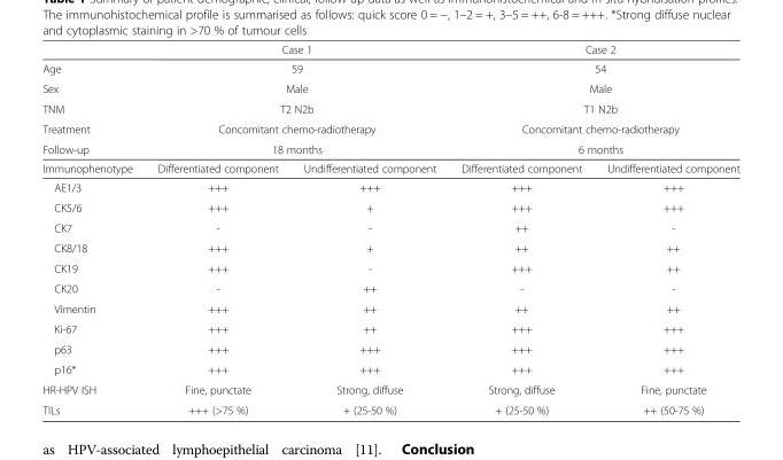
<table><thead><tr><td></td><td colspan="2">Case 1</td><td colspan="2">Case 2</td></tr></thead><tbody><tr><td>Age</td><td colspan="2">59</td><td colspan="2">54</td></tr><tr><td>Sex</td><td colspan="2">Male</td><td colspan="2">Male</td></tr><tr><td>TNM</td><td colspan="2">T2 N2b</td><td colspan="2">T1 N2b</td></tr><tr><td>Treatment</td><td colspan="2">Concomitant chemo-radiotherapy</td><td colspan="2">Concomitant chemo-radiotherapy</td></tr><tr><td>Follow-up</td><td colspan="2">18 months</td><td colspan="2">6 months</td></tr><tr><td>Immunophenotype</td><td>Differentiated component</td><td>Undifferentiated component</td><td>Differentiated component</td><td>Undifferentiated component</td></tr><tr><td>AE1/3</td><td>+++</td><td>+++</td><td>+++</td><td>+++</td></tr><tr><td>CK5/6</td><td>+++</td><td>+</td><td>+++</td><td>+++</td></tr><tr><td>CK7</td><td>-</td><td>-</td><td>++</td><td>-</td></tr><tr><td>CK8/18</td><td>+++</td><td>+</td><td>++</td><td>++</td></tr><tr><td>CK19</td><td>+++</td><td>-</td><td>+++</td><td>++</td></tr><tr><td>CK20</td><td>-</td><td>++</td><td>-</td><td>-</td></tr><tr><td>Vimentin</td><td>+++</td><td>++</td><td>++</td><td>++</td></tr><tr><td>Ki-67</td><td>+++</td><td>++</td><td>+++</td><td>+++</td></tr><tr><td>p63</td><td>+++</td><td>+++</td><td>+++</td><td>+++</td></tr><tr><td>p16*</td><td>+++</td><td>+++</td><td>+++</td><td>+++</td></tr><tr><td>HR-HPV ISH</td><td>Fine, punctate</td><td>Strong, diffuse</td><td>Strong, diffuse</td><td>Fine, punctate</td></tr><tr><td>TILs</td><td>+++ (&gt;75 %)</td><td>+ (25-50 %)</td><td>+ (25-50 %)</td><td>++ (50-75 %)</td></tr></tbody></table>